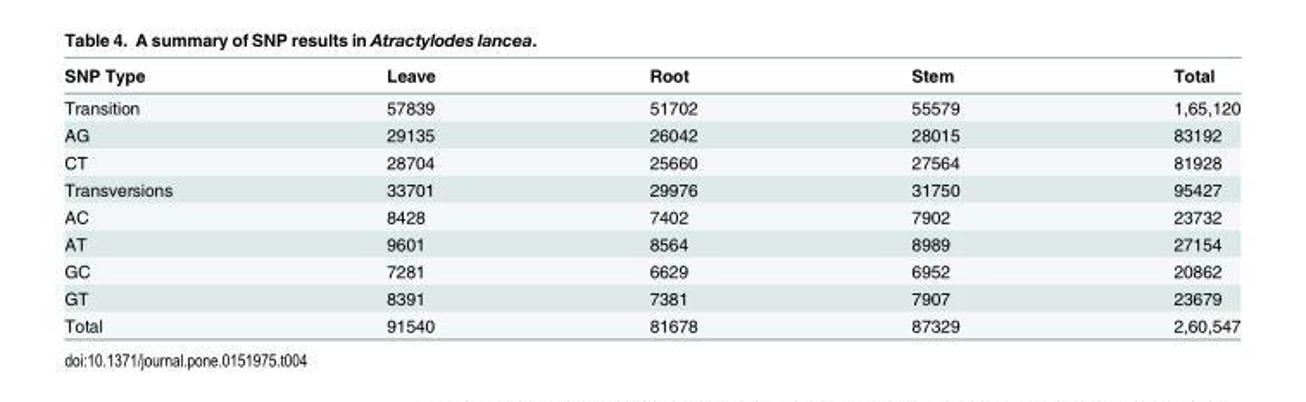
<table><thead><tr><td>SNP Type</td><td>Leave</td><td>Root</td><td>Stem</td><td>Total</td></tr></thead><tbody><tr><td>Transition</td><td>57839</td><td>51702</td><td>55579</td><td>1,65,120</td></tr><tr><td>AG</td><td>29135</td><td>26042</td><td>28015</td><td>83192</td></tr><tr><td>CT</td><td>28704</td><td>25660</td><td>27564</td><td>81928</td></tr><tr><td>Transversions</td><td>33701</td><td>29976</td><td>31750</td><td>95427</td></tr><tr><td>AC</td><td>8428</td><td>7402</td><td>7902</td><td>23732</td></tr><tr><td>AT</td><td>9601</td><td>8564</td><td>8989</td><td>27154</td></tr><tr><td>GC</td><td>7281</td><td>6629</td><td>6952</td><td>20862</td></tr><tr><td>GT</td><td>8391</td><td>7381</td><td>7907</td><td>23679</td></tr><tr><td>Total</td><td>91540</td><td>81678</td><td>87329</td><td>2,60,547</td></tr></tbody></table>